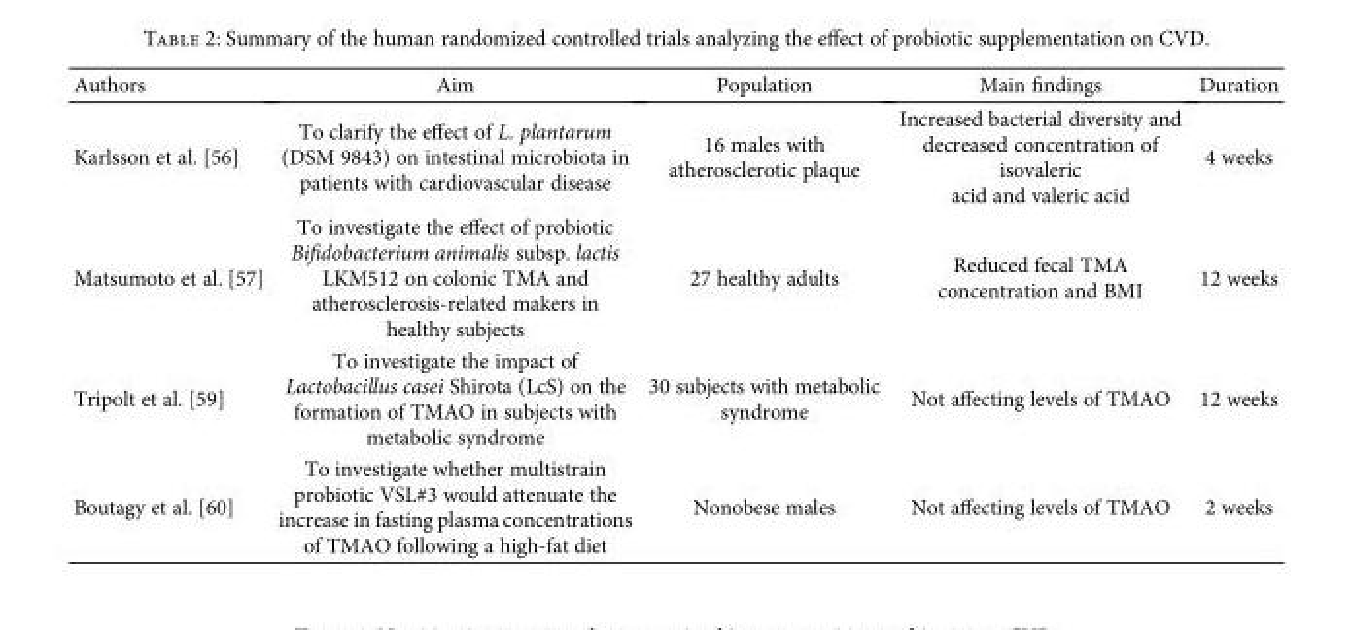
<table><thead><tr><td>Authors</td><td>Aim</td><td>Population</td><td>Main findings</td><td>Duration</td></tr></thead><tbody><tr><td>Karlsson et al. [56]</td><td>To clarify the effect of L. plantarum (DSM 9843) on intestinal microbiota in patients with cardiovascular disease</td><td>16 males with atherosclerotic plaque</td><td>Increased bacterial diversity and decreased concentration of isovaleric acid and valeric acid</td><td>4 weeks</td></tr><tr><td>Matsumoto et al. [57]</td><td>To investigate the effect of probiotic Bifidobacterium animalis subsp. lactis LKM512 on colonic TMA and atherosclerosis-related makers in healthy subjects</td><td>27 healthy adults</td><td>Reduced fecal TMA concentration and BMI</td><td>12 weeks</td></tr><tr><td>Tripolt et al. [59]</td><td>To investigate the impact of Lactobacillus casei Shirota (LcS) on the formation of TMAO in subjects with metabolic syndrome</td><td>30 subjects with metabolic syndrome</td><td>Not affecting levels of TMAO</td><td>12 weeks</td></tr><tr><td>Boutagy et al. [60]</td><td>To investigate whether multistrain probiotic VSL#3 would attenuate the increase in fasting plasma concentrations of TMAO following a high-fat diet</td><td>Nonobese males</td><td>Not affecting levels of TMAO</td><td>2 weeks</td></tr></tbody></table>